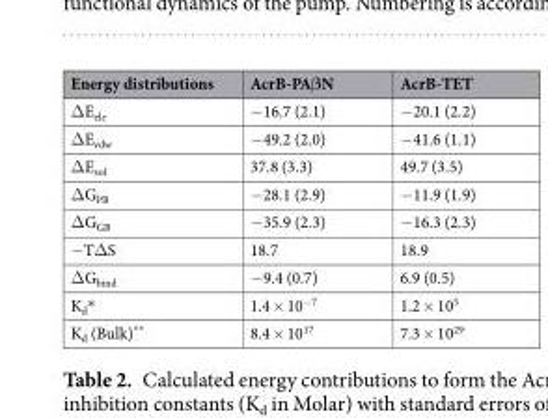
<table><thead><tr><td>Energy distributions</td><td>AcrB-PAβN</td><td>AcrB-TET</td></tr></thead><tbody><tr><td>ΔE<sub>ele</sub></td><td>−16.7 (2.1)</td><td>−20.1 (2.2)</td></tr><tr><td>ΔE<sub>vdw</sub></td><td>−49.2 (2.0)</td><td>−41.6 (1.1)</td></tr><tr><td>ΔE<sub>sol</sub></td><td>37.8 (3.3)</td><td>49.7 (3.5)</td></tr><tr><td>ΔG<sub>PB</sub></td><td>−28.1 (2.9)</td><td>−11.9 (1.9)</td></tr><tr><td>ΔG<sub>GB</sub></td><td>−35.9 (2.3)</td><td>−16.3 (2.3)</td></tr><tr><td>−TΔS</td><td>18.7</td><td>18.9</td></tr><tr><td>ΔG<sub>bind</sub></td><td>−9.4 (0.7)</td><td>6.9 (0.5)</td></tr><tr><td>K<sub>d</sub>*</td><td>1.4 × 10<sup>−7</sup></td><td>1.2 × 10<sup>5</sup></td></tr><tr><td>K<sub>d</sub> (Bulk)**</td><td>8.4 × 10<sup>17</sup></td><td>7.3 × 10<sup>29</sup></td></tr></tbody></table>